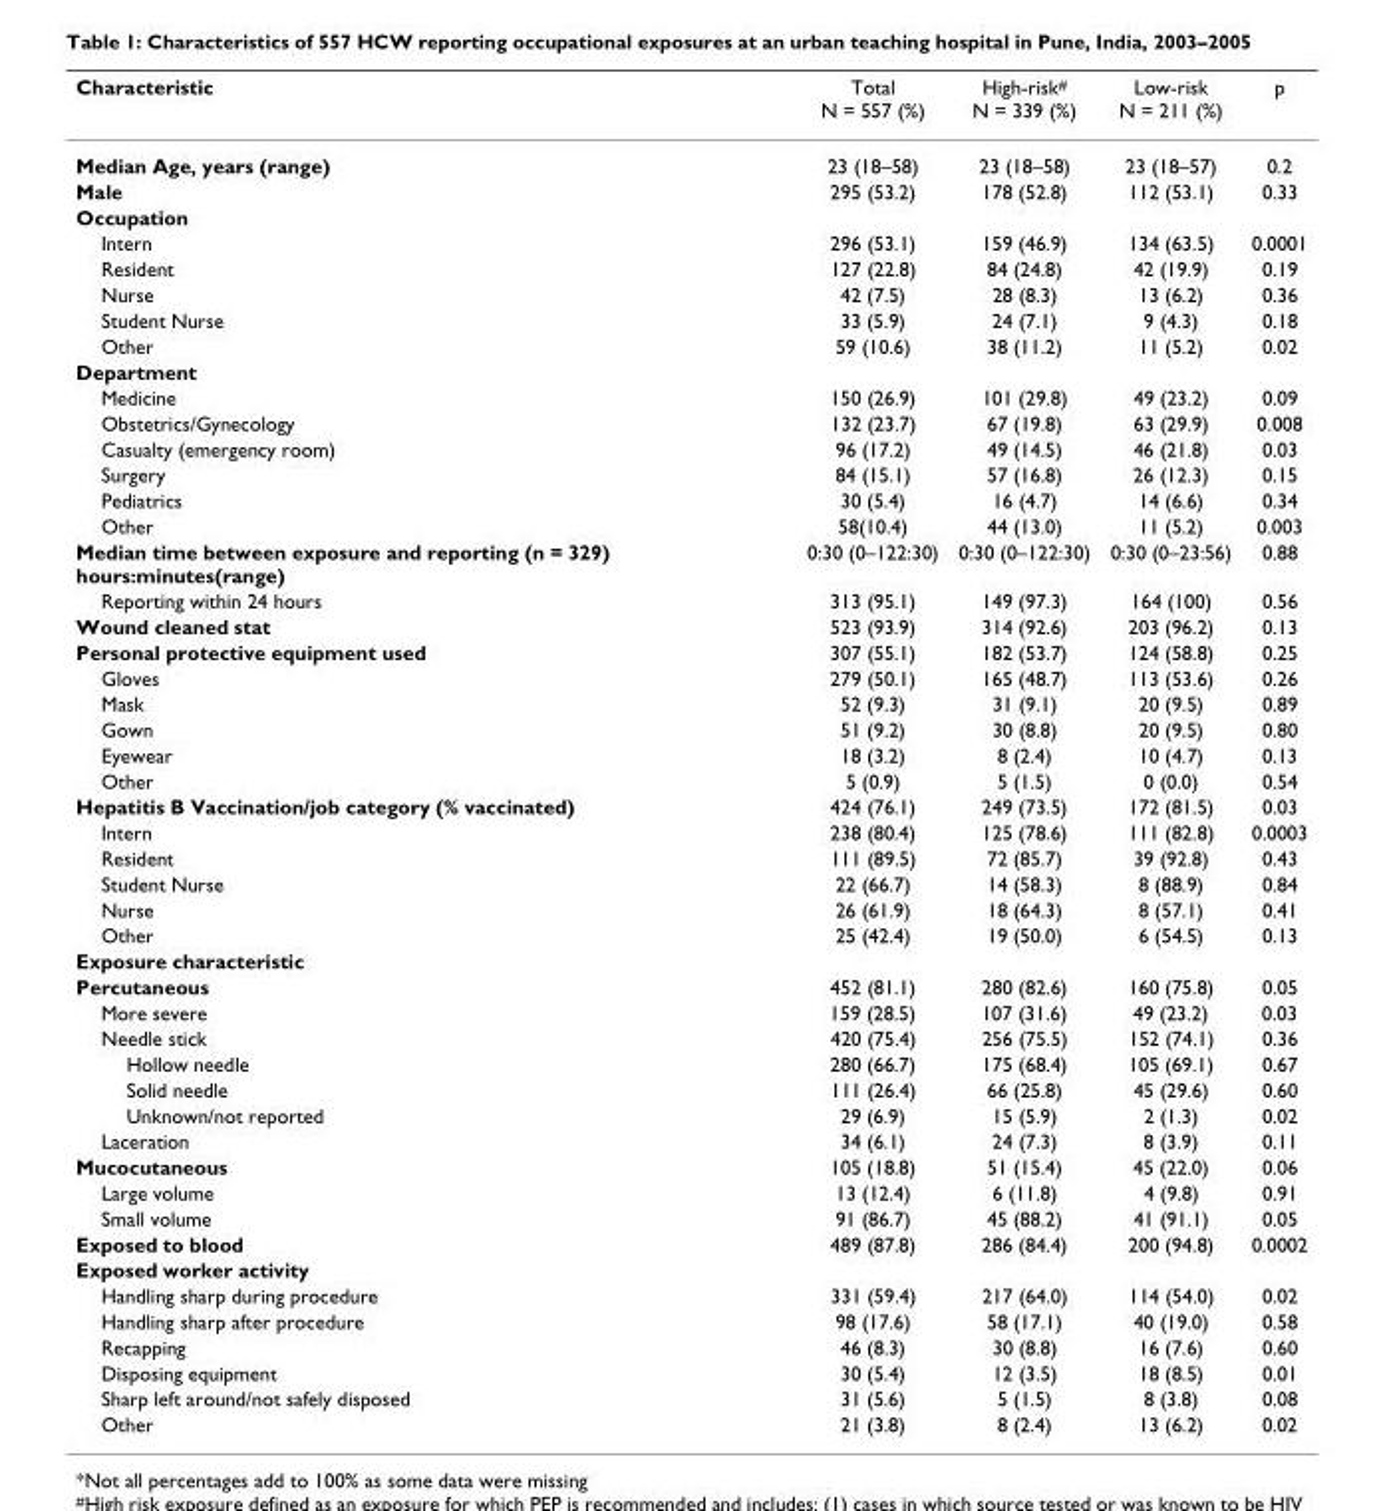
<table><thead><tr><td>Characteristic</td><td>Total N = 557 (%)</td><td>High-risk<sup>#</sup> N = 339 (%)</td><td>Low-risk N = 211 (%)</td><td>p</td></tr></thead><tbody><tr><td>Median Age, years (range)</td><td>23 (18–58)</td><td>23 (18–58)</td><td>23 (18–57)</td><td>0.2</td></tr><tr><td>Male</td><td>295 (53.2)</td><td>178 (52.8)</td><td>112 (53.1)</td><td>0.33</td></tr><tr><td colspan="5">Occupation</td></tr><tr><td>Intern</td><td>296 (53.1)</td><td>159 (46.9)</td><td>134 (63.5)</td><td>0.0001</td></tr><tr><td>Resident</td><td>127 (22.8)</td><td>84 (24.8)</td><td>42 (19.9)</td><td>0.19</td></tr><tr><td>Nurse</td><td>42 (7.5)</td><td>28 (8.3)</td><td>13 (6.2)</td><td>0.36</td></tr><tr><td>Student Nurse</td><td>33 (5.9)</td><td>24 (7.1)</td><td>9 (4.3)</td><td>0.18</td></tr><tr><td>Other</td><td>59 (10.6)</td><td>38 (11.2)</td><td>11 (5.2)</td><td>0.02</td></tr><tr><td colspan="5">Department</td></tr><tr><td>Medicine</td><td>150 (26.9)</td><td>101 (29.8)</td><td>49 (23.2)</td><td>0.09</td></tr><tr><td>Obstetrics/Gynecology</td><td>132 (23.7)</td><td>67 (19.8)</td><td>63 (29.9)</td><td>0.008</td></tr><tr><td>Casualty (emergency room)</td><td>96 (17.2)</td><td>49 (14.5)</td><td>46 (21.8)</td><td>0.03</td></tr><tr><td>Surgery</td><td>84 (15.1)</td><td>57 (16.8)</td><td>26 (12.3)</td><td>0.15</td></tr><tr><td>Pediatrics</td><td>30 (5.4)</td><td>16 (4.7)</td><td>14 (6.6)</td><td>0.34</td></tr><tr><td>Other</td><td>58(10.4)</td><td>44 (13.0)</td><td>11 (5.2)</td><td>0.003</td></tr><tr><td>Median time between exposure and reporting (n = 329) hours:minutes(range)</td><td>0:30 (0–122:30)</td><td>0:30 (0–122:30)</td><td>0:30 (0–23:56)</td><td>0.88</td></tr><tr><td>Reporting within 24 hours</td><td>313 (95.1)</td><td>149 (97.3)</td><td>164 (100)</td><td>0.56</td></tr><tr><td>Wound cleaned stat</td><td>523 (93.9)</td><td>314 (92.6)</td><td>203 (96.2)</td><td>0.13</td></tr><tr><td>Personal protective equipment used</td><td>307 (55.1)</td><td>182 (53.7)</td><td>124 (58.8)</td><td>0.25</td></tr><tr><td>Gloves</td><td>279 (50.1)</td><td>165 (48.7)</td><td>113 (53.6)</td><td>0.26</td></tr><tr><td>Mask</td><td>52 (9.3)</td><td>31 (9.1)</td><td>20 (9.5)</td><td>0.89</td></tr><tr><td>Gown</td><td>51 (9.2)</td><td>30 (8.8)</td><td>20 (9.5)</td><td>0.80</td></tr><tr><td>Eyewear</td><td>18 (3.2)</td><td>8 (2.4)</td><td>10 (4.7)</td><td>0.13</td></tr><tr><td>Other</td><td>5 (0.9)</td><td>5 (1.5)</td><td>0 (0.0)</td><td>0.54</td></tr><tr><td>Hepatitis B Vaccination/job category (% vaccinated)</td><td>424 (76.1)</td><td>249 (73.5)</td><td>172 (81.5)</td><td>0.03</td></tr><tr><td>Intern</td><td>238 (80.4)</td><td>125 (78.6)</td><td>111 (82.8)</td><td>0.0003</td></tr><tr><td>Resident</td><td>111 (89.5)</td><td>72 (85.7)</td><td>39 (92.8)</td><td>0.43</td></tr><tr><td>Student Nurse</td><td>22 (66.7)</td><td>14 (58.3)</td><td>8 (88.9)</td><td>0.84</td></tr><tr><td>Nurse</td><td>26 (61.9)</td><td>18 (64.3)</td><td>8 (57.1)</td><td>0.41</td></tr><tr><td>Other</td><td>25 (42.4)</td><td>19 (50.0)</td><td>6 (54.5)</td><td>0.13</td></tr><tr><td colspan="5">Exposure characteristic</td></tr><tr><td>Percutaneous</td><td>452 (81.1)</td><td>280 (82.6)</td><td>160 (75.8)</td><td>0.05</td></tr><tr><td>More severe</td><td>159 (28.5)</td><td>107 (31.6)</td><td>49 (23.2)</td><td>0.03</td></tr><tr><td>Needle stick</td><td>420 (75.4)</td><td>256 (75.5)</td><td>152 (74.1)</td><td>0.36</td></tr><tr><td>Hollow needle</td><td>280 (66.7)</td><td>175 (68.4)</td><td>105 (69.1)</td><td>0.67</td></tr><tr><td>Solid needle</td><td>111 (26.4)</td><td>66 (25.8)</td><td>45 (29.6)</td><td>0.60</td></tr><tr><td>Unknown/not reported</td><td>29 (6.9)</td><td>15 (5.9)</td><td>2 (1.3)</td><td>0.02</td></tr><tr><td>Laceration</td><td>34 (6.1)</td><td>24 (7.3)</td><td>8 (3.9)</td><td>0.11</td></tr><tr><td>Mucocutaneous</td><td>105 (18.8)</td><td>51 (15.4)</td><td>45 (22.0)</td><td>0.06</td></tr><tr><td>Large volume</td><td>13 (12.4)</td><td>6 (11.8)</td><td>4 (9.8)</td><td>0.91</td></tr><tr><td>Small volume</td><td>91 (86.7)</td><td>45 (88.2)</td><td>41 (91.1)</td><td>0.05</td></tr><tr><td>Exposed to blood</td><td>489 (87.8)</td><td>286 (84.4)</td><td>200 (94.8)</td><td>0.0002</td></tr><tr><td colspan="5">Exposed worker activity</td></tr><tr><td>Handling sharp during procedure</td><td>331 (59.4)</td><td>217 (64.0)</td><td>114 (54.0)</td><td>0.02</td></tr><tr><td>Handling sharp after procedure</td><td>98 (17.6)</td><td>58 (17.1)</td><td>40 (19.0)</td><td>0.58</td></tr><tr><td>Recapping</td><td>46 (8.3)</td><td>30 (8.8)</td><td>16 (7.6)</td><td>0.60</td></tr><tr><td>Disposing equipment</td><td>30 (5.4)</td><td>12 (3.5)</td><td>18 (8.5)</td><td>0.01</td></tr><tr><td>Sharp left around/not safely disposed</td><td>31 (5.6)</td><td>5 (1.5)</td><td>8 (3.8)</td><td>0.08</td></tr><tr><td>Other</td><td>21 (3.8)</td><td>8 (2.4)</td><td>13 (6.2)</td><td>0.02</td></tr></tbody></table>